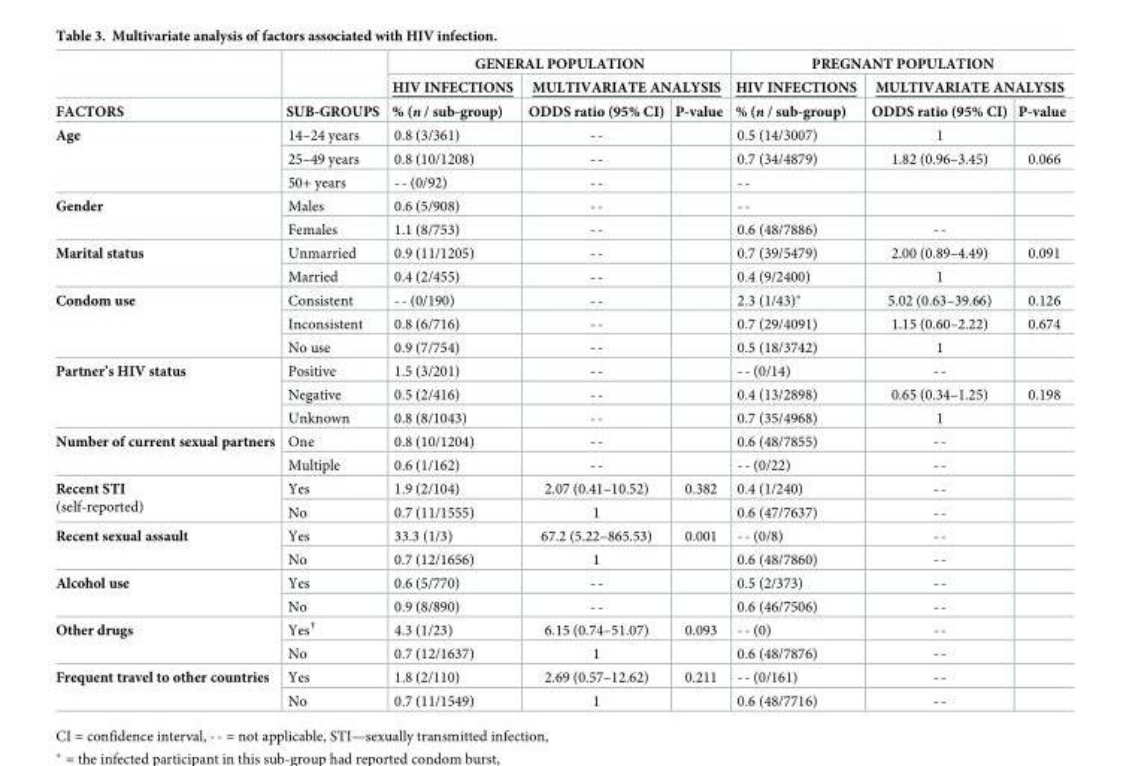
<table><thead><tr><td rowspan="3">FACTORS</td><td rowspan="3">SUB-GROUPS</td><td colspan="3">GENERAL POPULATION</td><td colspan="3">PREGNANT POPULATION</td></tr><tr><td rowspan="2">HIV INFECTIONS % (n / sub-group)</td><td colspan="2">MULTIVARIATE ANALYSIS</td><td rowspan="2">HIV INFECTIONS % (n / sub-group)</td><td colspan="2">MULTIVARIATE ANALYSIS</td></tr><tr><td>ODDS ratio (95% CI)</td><td>P-value</td><td>ODDS ratio (95% CI)</td><td>P-value</td></tr></thead><tbody><tr><td rowspan="3">Age</td><td>14–24 years</td><td>0.8 (3/361)</td><td>--</td><td></td><td>0.5 (14/3007)</td><td>1</td><td></td></tr><tr><td>25–49 years</td><td>0.8 (10/1208)</td><td>--</td><td></td><td>0.7 (34/4879)</td><td>1.82 (0.96–3.45)</td><td>0.066</td></tr><tr><td>50+ years</td><td>-- (0/92)</td><td>--</td><td></td><td>--</td><td></td><td></td></tr><tr><td rowspan="2">Gender</td><td>Males</td><td>0.6 (5/908)</td><td>--</td><td></td><td>--</td><td></td><td></td></tr><tr><td>Females</td><td>1.1 (8/753)</td><td>--</td><td></td><td>0.6 (48/7886)</td><td>--</td><td></td></tr><tr><td rowspan="2">Marital status</td><td>Unmarried</td><td>0.9 (11/1205)</td><td>--</td><td></td><td>0.7 (39/5479)</td><td>2.00 (0.89–4.49)</td><td>0.091</td></tr><tr><td>Married</td><td>0.4 (2/455)</td><td>--</td><td></td><td>0.4 (9/2400)</td><td>1</td><td></td></tr><tr><td rowspan="3">Condom use</td><td>Consistent</td><td>-- (0/190)</td><td>--</td><td></td><td>2.3 (1/43)*</td><td>5.02 (0.63–39.66)</td><td>0.126</td></tr><tr><td>Inconsistent</td><td>0.8 (6/716)</td><td>--</td><td></td><td>0.7 (29/4091)</td><td>1.15 (0.60–2.22)</td><td>0.674</td></tr><tr><td>No use</td><td>0.9 (7/754)</td><td>--</td><td></td><td>0.5 (18/3742)</td><td>1</td><td></td></tr><tr><td rowspan="3">Partner’s HIV status</td><td>Positive</td><td>1.5 (3/201)</td><td>--</td><td></td><td>-- (0/14)</td><td>--</td><td></td></tr><tr><td>Negative</td><td>0.5 (2/416)</td><td>--</td><td></td><td>0.4 (13/2898)</td><td>0.65 (0.34–1.25)</td><td>0.198</td></tr><tr><td>Unknown</td><td>0.8 (8/1043)</td><td>--</td><td></td><td>0.7 (35/4968)</td><td>1</td><td></td></tr><tr><td rowspan="2">Number of current sexual partners</td><td>One</td><td>0.8 (10/1204)</td><td>--</td><td></td><td>0.6 (48/7855)</td><td>--</td><td></td></tr><tr><td>Multiple</td><td>0.6 (1/162)</td><td>--</td><td></td><td>-- (0/22)</td><td>--</td><td></td></tr><tr><td rowspan="2">Recent STI (self-reported)</td><td>Yes</td><td>1.9 (2/104)</td><td>2.07 (0.41–10.52)</td><td>0.382</td><td>0.4 (1/240)</td><td>--</td><td></td></tr><tr><td>No</td><td>0.7 (11/1555)</td><td>1</td><td></td><td>0.6 (47/7637)</td><td>--</td><td></td></tr><tr><td rowspan="2">Recent sexual assault</td><td>Yes</td><td>33.3 (1/3)</td><td>67.2 (5.22–865.53)</td><td>0.001</td><td>-- (0/8)</td><td>--</td><td></td></tr><tr><td>No</td><td>0.7 (12/1656)</td><td>1</td><td></td><td>0.6 (48/7860)</td><td>--</td><td></td></tr><tr><td rowspan="2">Alcohol use</td><td>Yes</td><td>0.6 (5/770)</td><td>--</td><td></td><td>0.5 (2/373)</td><td>--</td><td></td></tr><tr><td>No</td><td>0.9 (8/890)</td><td>--</td><td></td><td>0.6 (46/7506)</td><td>--</td><td></td></tr><tr><td rowspan="2">Other drugs</td><td>Yes<sup>†</sup></td><td>4.3 (1/23)</td><td>6.15 (0.74–51.07)</td><td>0.093</td><td>-- (0)</td><td>--</td><td></td></tr><tr><td>No</td><td>0.7 (12/1637)</td><td>1</td><td></td><td>0.6 (48/7876)</td><td>--</td><td></td></tr><tr><td rowspan="2">Frequent travel to other countries</td><td>Yes</td><td>1.8 (2/110)</td><td>2.69 (0.57–12.62)</td><td>0.211</td><td>-- (0/161)</td><td>--</td><td></td></tr><tr><td>No</td><td>0.7 (11/1549)</td><td>1</td><td></td><td>0.6 (48/7716)</td><td>--</td><td></td></tr></tbody></table>